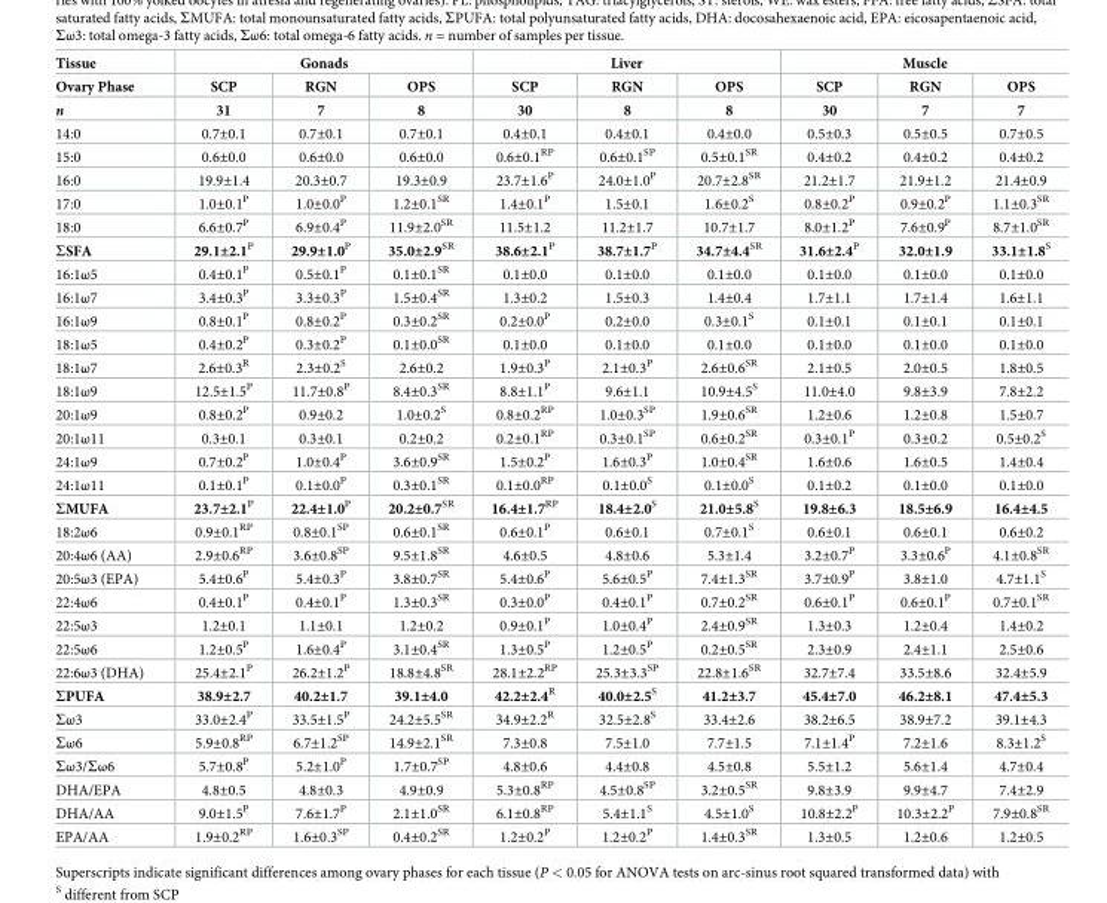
<table><thead><tr><td rowspan="3">Tissue Ovary Phase n</td><td colspan="3">Gonads</td><td colspan="3">Liver</td><td colspan="3">Muscle</td></tr><tr><td rowspan="2">SCP 31</td><td rowspan="2">RGN 7</td><td rowspan="2">OPS 8</td><td rowspan="2">SCP 30</td><td rowspan="2">RGN 8</td><td rowspan="2">OPS 8</td><td rowspan="2">SCP 30</td><td rowspan="2">RGN 7</td><td rowspan="2">OPS 7</td></tr><tr></tr></thead><tbody><tr><td>14:0</td><td>0.7±0.1</td><td>0.7±0.1</td><td>0.7±0.1</td><td>0.4±0.1</td><td>0.4±0.1</td><td>0.4±0.0</td><td>0.5±0.3</td><td>0.5±0.5</td><td>0.7±0.5</td></tr><tr><td>15:0</td><td>0.6±0.0</td><td>0.6±0.0</td><td>0.6±0.0</td><td>0.6±0.1<sup>RP</sup></td><td>0.6±0.1<sup>SP</sup></td><td>0.5±0.1<sup>SR</sup></td><td>0.4±0.2</td><td>0.4±0.2</td><td>0.4±0.2</td></tr><tr><td>16:0</td><td>19.9±1.4</td><td>20.3±0.7</td><td>19.3±0.9</td><td>23.7±1.6<sup>P</sup></td><td>24.0±1.0<sup>P</sup></td><td>20.7±2.8<sup>SR</sup></td><td>21.2±1.7</td><td>21.9±1.2</td><td>21.4±0.9</td></tr><tr><td>17:0</td><td>1.0±0.1<sup>P</sup></td><td>1.0±0.0<sup>P</sup></td><td>1.2±0.1<sup>SR</sup></td><td>1.4±0.1<sup>P</sup></td><td>1.5±0.1</td><td>1.6±0.2<sup>S</sup></td><td>0.8±0.2<sup>P</sup></td><td>0.9±0.2<sup>P</sup></td><td>1.1±0.3<sup>SR</sup></td></tr><tr><td>18:0</td><td>6.6±0.7<sup>P</sup></td><td>6.9±0.4<sup>P</sup></td><td>11.9±2.0<sup>SR</sup></td><td>11.5±1.2</td><td>11.2±1.7</td><td>10.7±1.7</td><td>8.0±1.2<sup>P</sup></td><td>7.6±0.9<sup>P</sup></td><td>8.7±1.0<sup>SR</sup></td></tr><tr><td>ΣSFA</td><td>29.1±2.1<sup>P</sup></td><td>29.9±1.0<sup>P</sup></td><td>35.0±2.9<sup>SR</sup></td><td>38.6±2.1<sup>P</sup></td><td>38.7±1.7<sup>P</sup></td><td>34.7±4.4<sup>SR</sup></td><td>31.6±2.4<sup>P</sup></td><td>32.0±1.9</td><td>33.1±1.8<sup>S</sup></td></tr><tr><td>16:1ω5</td><td>0.4±0.1<sup>P</sup></td><td>0.5±0.1<sup>P</sup></td><td>0.1±0.1<sup>SR</sup></td><td>0.1±0.0</td><td>0.1±0.0</td><td>0.1±0.0</td><td>0.1±0.0</td><td>0.1±0.0</td><td>0.1±0.0</td></tr><tr><td>16:1ω7</td><td>3.4±0.3<sup>P</sup></td><td>3.3±0.3<sup>P</sup></td><td>1.5±0.4<sup>SR</sup></td><td>1.3±0.2</td><td>1.5±0.3</td><td>1.4±0.4</td><td>1.7±1.1</td><td>1.7±1.4</td><td>1.6±1.1</td></tr><tr><td>16:1ω9</td><td>0.8±0.1<sup>P</sup></td><td>0.8±0.2<sup>P</sup></td><td>0.3±0.2<sup>SR</sup></td><td>0.2±0.0<sup>P</sup></td><td>0.2±0.0</td><td>0.3±0.1<sup>S</sup></td><td>0.1±0.1</td><td>0.1±0.1</td><td>0.1±0.1</td></tr><tr><td>18:1ω5</td><td>0.4±0.2<sup>P</sup></td><td>0.3±0.2<sup>P</sup></td><td>0.1±0.0<sup>SR</sup></td><td>0.1±0.0</td><td>0.1±0.0</td><td>0.1±0.0</td><td>0.1±0.0</td><td>0.1±0.0</td><td>0.1±0.0</td></tr><tr><td>18:1ω7</td><td>2.6±0.3<sup>R</sup></td><td>2.3±0.2<sup>S</sup></td><td>2.6±0.2</td><td>1.9±0.3<sup>P</sup></td><td>2.1±0.3<sup>P</sup></td><td>2.6±0.6<sup>SR</sup></td><td>2.1±0.5</td><td>2.0±0.5</td><td>1.8±0.5</td></tr><tr><td>18:1ω9</td><td>12.5±1.5<sup>P</sup></td><td>11.7±0.8<sup>P</sup></td><td>8.4±0.3<sup>SR</sup></td><td>8.8±1.1<sup>P</sup></td><td>9.6±1.1</td><td>10.9±4.5<sup>S</sup></td><td>11.0±4.0</td><td>9.8±3.9</td><td>7.8±2.2</td></tr><tr><td>20:1ω9</td><td>0.8±0.2<sup>P</sup></td><td>0.9±0.2</td><td>1.0±0.2<sup>S</sup></td><td>0.8±0.2<sup>RP</sup></td><td>1.0±0.3<sup>SP</sup></td><td>1.9±0.6<sup>SR</sup></td><td>1.2±0.6</td><td>1.2±0.8</td><td>1.5±0.7</td></tr><tr><td>20:1ω11</td><td>0.3±0.1</td><td>0.3±0.1</td><td>0.2±0.2</td><td>0.2±0.1<sup>RP</sup></td><td>0.3±0.1<sup>SP</sup></td><td>0.6±0.2<sup>SR</sup></td><td>0.3±0.1<sup>P</sup></td><td>0.3±0.2</td><td>0.5±0.2<sup>S</sup></td></tr><tr><td>24:1ω9</td><td>0.7±0.2<sup>P</sup></td><td>1.0±0.4<sup>P</sup></td><td>3.6±0.9<sup>SR</sup></td><td>1.5±0.2<sup>P</sup></td><td>1.6±0.3<sup>P</sup></td><td>1.0±0.4<sup>SR</sup></td><td>1.6±0.6</td><td>1.6±0.5</td><td>1.4±0.4</td></tr><tr><td>24:1ω11</td><td>0.1±0.1<sup>P</sup></td><td>0.1±0.0<sup>P</sup></td><td>0.3±0.1<sup>SR</sup></td><td>0.1±0.0<sup>RP</sup></td><td>0.1±0.0<sup>S</sup></td><td>0.1±0.0<sup>S</sup></td><td>0.1±0.2</td><td>0.1±0.0</td><td>0.1±0.0</td></tr><tr><td>ΣMUFA</td><td>23.7±2.1<sup>P</sup></td><td>22.4±1.0<sup>P</sup></td><td>20.2±0.7<sup>SR</sup></td><td>16.4±1.7<sup>RP</sup></td><td>18.4±2.0<sup>S</sup></td><td>21.0±5.8<sup>S</sup></td><td>19.8±6.3</td><td>18.5±6.9</td><td>16.4±4.5</td></tr><tr><td>18:2ω6</td><td>0.9±0.1<sup>RP</sup></td><td>0.8±0.1<sup>SP</sup></td><td>0.6±0.1<sup>SR</sup></td><td>0.6±0.1<sup>P</sup></td><td>0.6±0.1</td><td>0.7±0.1<sup>S</sup></td><td>0.6±0.1</td><td>0.6±0.1</td><td>0.6±0.2</td></tr><tr><td>20:4ω6 (AA)</td><td>2.9±0.6<sup>RP</sup></td><td>3.6±0.8<sup>SP</sup></td><td>9.5±1.8<sup>SR</sup></td><td>4.6±0.5</td><td>4.8±0.6</td><td>5.3±1.4</td><td>3.2±0.7<sup>P</sup></td><td>3.3±0.6<sup>P</sup></td><td>4.1±0.8<sup>SR</sup></td></tr><tr><td>20:5ω3 (EPA)</td><td>5.4±0.6<sup>P</sup></td><td>5.4±0.3<sup>P</sup></td><td>3.8±0.7<sup>SR</sup></td><td>5.4±0.6<sup>P</sup></td><td>5.6±0.5<sup>P</sup></td><td>7.4±1.3<sup>SR</sup></td><td>3.7±0.9<sup>P</sup></td><td>3.8±1.0</td><td>4.7±1.1<sup>S</sup></td></tr><tr><td>22:4ω6</td><td>0.4±0.1<sup>P</sup></td><td>0.4±0.1<sup>P</sup></td><td>1.3±0.3<sup>SR</sup></td><td>0.3±0.0<sup>P</sup></td><td>0.4±0.1<sup>P</sup></td><td>0.7±0.2<sup>SR</sup></td><td>0.6±0.1<sup>P</sup></td><td>0.6±0.1<sup>P</sup></td><td>0.7±0.1<sup>SR</sup></td></tr><tr><td>22:5ω3</td><td>1.2±0.1</td><td>1.1±0.1</td><td>1.2±0.2</td><td>0.9±0.1<sup>P</sup></td><td>1.0±0.4<sup>P</sup></td><td>2.4±0.9<sup>SR</sup></td><td>1.3±0.3</td><td>1.2±0.4</td><td>1.4±0.2</td></tr><tr><td>22:5ω6</td><td>1.2±0.5<sup>P</sup></td><td>1.6±0.4<sup>P</sup></td><td>3.1±0.4<sup>SR</sup></td><td>1.3±0.5<sup>P</sup></td><td>1.2±0.5<sup>P</sup></td><td>0.2±0.5<sup>SR</sup></td><td>2.3±0.9</td><td>2.4±1.1</td><td>2.5±0.6</td></tr><tr><td>22:6ω3 (DHA)</td><td>25.4±2.1<sup>P</sup></td><td>26.2±1.2<sup>P</sup></td><td>18.8±4.8<sup>SR</sup></td><td>28.1±2.2<sup>RP</sup></td><td>25.3±3.3<sup>SP</sup></td><td>22.8±1.6<sup>SR</sup></td><td>32.7±7.4</td><td>33.5±8.6</td><td>32.4±5.9</td></tr><tr><td>ΣPUFA</td><td>38.9±2.7</td><td>40.2±1.7</td><td>39.1±4.0</td><td>42.2±2.4<sup>R</sup></td><td>40.0±2.5<sup>S</sup></td><td>41.2±3.7</td><td>45.4±7.0</td><td>46.2±8.1</td><td>47.4±5.3</td></tr><tr><td>Σω3</td><td>33.0±2.4<sup>P</sup></td><td>33.5±1.5<sup>P</sup></td><td>24.2±5.5<sup>SR</sup></td><td>34.9±2.2<sup>R</sup></td><td>32.5±2.8<sup>S</sup></td><td>33.4±2.6</td><td>38.2±6.5</td><td>38.9±7.2</td><td>39.1±4.3</td></tr><tr><td>Σω6</td><td>5.9±0.8<sup>RP</sup></td><td>6.7±1.2<sup>SP</sup></td><td>14.9±2.1<sup>SR</sup></td><td>7.3±0.8</td><td>7.5±1.0</td><td>7.7±1.5</td><td>7.1±1.4<sup>P</sup></td><td>7.2±1.6</td><td>8.3±1.2<sup>S</sup></td></tr><tr><td>Σω3/Σω6</td><td>5.7±0.8<sup>P</sup></td><td>5.2±1.0<sup>P</sup></td><td>1.7±0.7<sup>SP</sup></td><td>4.8±0.6</td><td>4.4±0.8</td><td>4.5±0.8</td><td>5.5±1.2</td><td>5.6±1.4</td><td>4.7±0.4</td></tr><tr><td>DHA/EPA</td><td>4.8±0.5</td><td>4.8±0.3</td><td>4.9±0.9</td><td>5.3±0.8<sup>RP</sup></td><td>4.5±0.8<sup>SP</sup></td><td>3.2±0.5<sup>SR</sup></td><td>9.8±3.9</td><td>9.9±4.7</td><td>7.4±2.9</td></tr><tr><td>DHA/AA</td><td>9.0±1.5<sup>P</sup></td><td>7.6±1.7<sup>P</sup></td><td>2.1±1.0<sup>SR</sup></td><td>6.1±0.8<sup>RP</sup></td><td>5.4±1.1<sup>S</sup></td><td>4.5±1.0<sup>S</sup></td><td>10.8±2.2<sup>P</sup></td><td>10.3±2.2<sup>P</sup></td><td>7.9±0.8<sup>SR</sup></td></tr><tr><td>EPA/AA</td><td>1.9±0.2<sup>RP</sup></td><td>1.6±0.3<sup>SP</sup></td><td>0.4±0.2<sup>SR</sup></td><td>1.2±0.2<sup>P</sup></td><td>1.2±0.2<sup>P</sup></td><td>1.4±0.3<sup>SR</sup></td><td>1.3±0.5</td><td>1.2±0.6</td><td>1.2±0.5</td></tr></tbody></table>